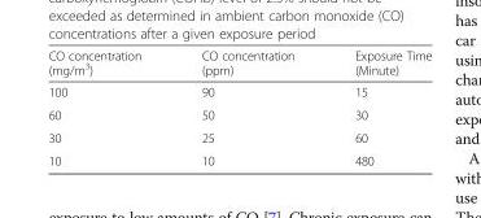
<table><thead><tr><td>CO concentration (mg/m<sup>3</sup>)</td><td>CO concentration (ppm)</td><td>Exposure Time (Minute)</td></tr></thead><tbody><tr><td>100</td><td>90</td><td>15</td></tr><tr><td>60</td><td>50</td><td>30</td></tr><tr><td>30</td><td>25</td><td>60</td></tr><tr><td>10</td><td>10</td><td>480</td></tr></tbody></table>